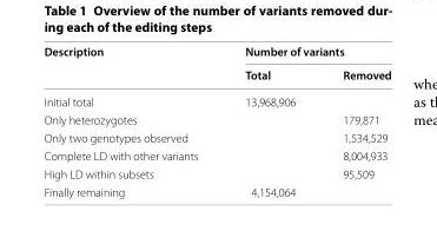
<table><thead><tr><td rowspan="2">Description</td><td colspan="2">Number of variants</td></tr><tr><td>Total</td><td>Removed</td></tr></thead><tbody><tr><td>Initial total</td><td>13,968,906</td><td></td></tr><tr><td>Only heterozygotes</td><td></td><td>179,871</td></tr><tr><td>Only two genotypes observed</td><td></td><td>1,534,529</td></tr><tr><td>Complete LD with other variants</td><td></td><td>8,004,933</td></tr><tr><td>High LD within subsets</td><td></td><td>95,509</td></tr><tr><td>Finally remaining</td><td>4,154,064</td><td></td></tr></tbody></table>